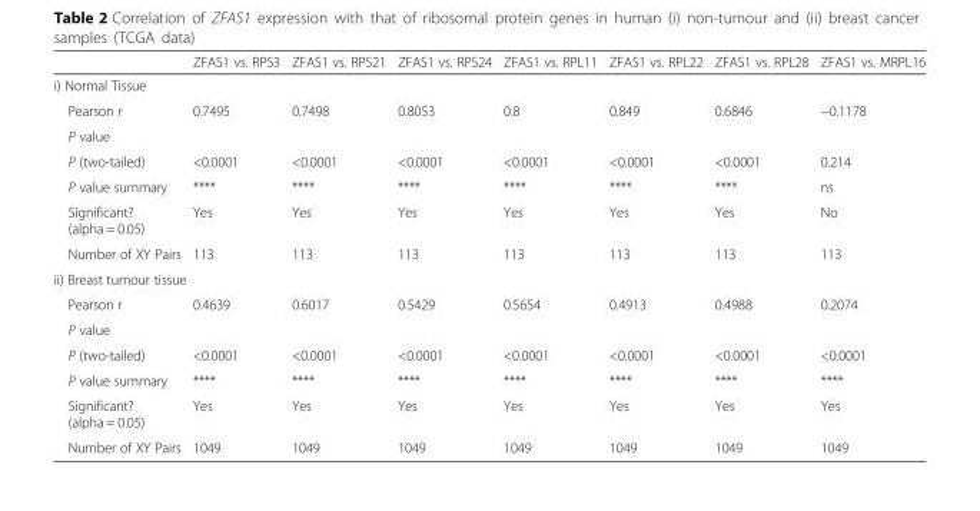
<table><thead><tr><td></td><td>ZFAS1 vs. RPS3</td><td>ZFAS1 vs. RPS21</td><td>ZFAS1 vs. RPS24</td><td>ZFAS1 vs. RPL11</td><td>ZFAS1 vs. RPL22</td><td>ZFAS1 vs. RPL28</td><td>ZFAS1 vs. MRPL16</td></tr></thead><tbody><tr><td colspan="8">i) Normal Tissue</td></tr><tr><td>Pearson r</td><td>0.7495</td><td>0.7498</td><td>0.8053</td><td>0.8</td><td>0.849</td><td>0.6846</td><td>−0.1178</td></tr><tr><td colspan="8">P value</td></tr><tr><td>P (two-tailed)</td><td>&lt;0.0001</td><td>&lt;0.0001</td><td>&lt;0.0001</td><td>&lt;0.0001</td><td>&lt;0.0001</td><td>&lt;0.0001</td><td>0.214</td></tr><tr><td>P value summary</td><td>****</td><td>****</td><td>****</td><td>****</td><td>****</td><td>****</td><td>ns</td></tr><tr><td>Significant? (alpha = 0.05)</td><td>Yes</td><td>Yes</td><td>Yes</td><td>Yes</td><td>Yes</td><td>Yes</td><td>No</td></tr><tr><td>Number of XY Pairs</td><td>113</td><td>113</td><td>113</td><td>113</td><td>113</td><td>113</td><td>113</td></tr><tr><td colspan="8">ii) Breast tumour tissue</td></tr><tr><td>Pearson r</td><td>0.4639</td><td>0.6017</td><td>0.5429</td><td>0.5654</td><td>0.4913</td><td>0.4988</td><td>0.2074</td></tr><tr><td colspan="8">P value</td></tr><tr><td>P (two-tailed)</td><td>&lt;0.0001</td><td>&lt;0.0001</td><td>&lt;0.0001</td><td>&lt;0.0001</td><td>&lt;0.0001</td><td>&lt;0.0001</td><td>&lt;0.0001</td></tr><tr><td>P value summary</td><td>****</td><td>****</td><td>****</td><td>****</td><td>****</td><td>****</td><td>****</td></tr><tr><td>Significant? (alpha = 0.05)</td><td>Yes</td><td>Yes</td><td>Yes</td><td>Yes</td><td>Yes</td><td>Yes</td><td>Yes</td></tr><tr><td>Number of XY Pairs</td><td>1049</td><td>1049</td><td>1049</td><td>1049</td><td>1049</td><td>1049</td><td>1049</td></tr></tbody></table>